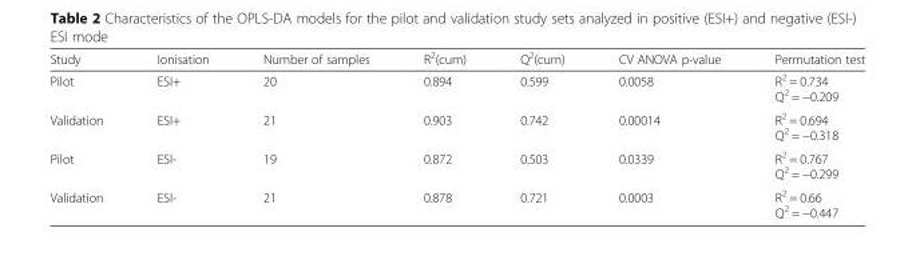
<table><thead><tr><td>Study</td><td>Ionisation</td><td>Number of samples</td><td>R<sup>2</sup>(cum)</td><td>Q<sup>2</sup>(cum)</td><td>CV ANOVA p-value</td><td>Permutation test</td></tr></thead><tbody><tr><td>Pilot</td><td>ESI+</td><td>20</td><td>0.894</td><td>0.599</td><td>0.0058</td><td>R<sup>2</sup> = 0.734 Q<sup>2</sup> = −0.209</td></tr><tr><td>Validation</td><td>ESI+</td><td>21</td><td>0.903</td><td>0.742</td><td>0.00014</td><td>R<sup>2</sup> = 0.694 Q<sup>2</sup> = −0.318</td></tr><tr><td>Pilot</td><td>ESI-</td><td>19</td><td>0.872</td><td>0.503</td><td>0.0339</td><td>R<sup>2</sup> = 0.767 Q<sup>2</sup> = −0.299</td></tr><tr><td>Validation</td><td>ESI-</td><td>21</td><td>0.878</td><td>0.721</td><td>0.0003</td><td>R<sup>2</sup> = 0.66 Q<sup>2</sup> = −0.447</td></tr></tbody></table>